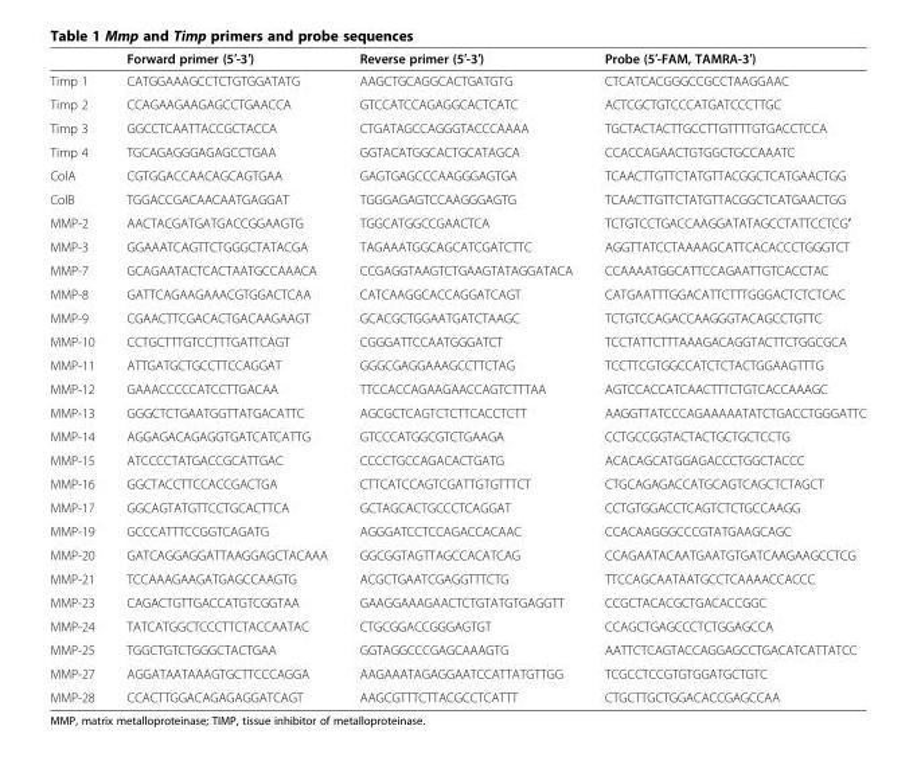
<table><thead><tr><td></td><td>Forward primer (5′-3′)</td><td>Reverse primer (5′-3′)</td><td>Probe (5′-FAM, TAMRA-3′)</td></tr></thead><tbody><tr><td>Timp 1</td><td>CATGGAAAGCCTCTGTGGATATG</td><td>AAGCTGCAGGCACTGATGTG</td><td>CTCATCACGGGCCGCCTAAGGAAC</td></tr><tr><td>Timp 2</td><td>CCAGAAGAAGAGCCTGAACCA</td><td>GTCCATCCAGAGGCACTCATC</td><td>ACTCGCTGTCCCATGATCCCTTGC</td></tr><tr><td>Timp 3</td><td>GGCCTCAATTACCGCTACCA</td><td>CTGATAGCCAGGGTACCCAAAA</td><td>TGCTACTACTTGCCTTGTTTTGTGACCTCCA</td></tr><tr><td>Timp 4</td><td>TGCAGAGGGAGAGCCTGAA</td><td>GGTACATGGCACTGCATAGCA</td><td>CCACCAGAACTGTGGCTGCCAAATC</td></tr><tr><td>ColA</td><td>CGTGGACCAACAGCAGTGAA</td><td>GAGTGAGCCCAAGGGAGTGA</td><td>TCAACTTGTTCTATGTTACGGCTCATGAACTGG</td></tr><tr><td>ColB</td><td>TGGACCGACAACAATGAGGAT</td><td>TGGGAGAGTCCAAGGGAGTG</td><td>TCAACTTGTTCTATGTTACGGCTCATGAACTGG</td></tr><tr><td>MMP-2</td><td>AACTACGATGATGACCGGAAGTG</td><td>TGGCATGGCCGAACTCA</td><td>TCTGTCCTGACCAAGGATATAGCCTATTCCTCG′</td></tr><tr><td>MMP-3</td><td>GGAAATCAGTTCTGGGCTATACGA</td><td>TAGAAATGGCAGCATCGATCTTC</td><td>AGGTTATCCTAAAAGCATTCACACCCTGGGTCT</td></tr><tr><td>MMP-7</td><td>GCAGAATACTCACTAATGCCAAACA</td><td>CCGAGGTAAGTCTGAAGTATAGGATACA</td><td>CCAAAATGGCATTCCAGAATTGTCACCTAC</td></tr><tr><td>MMP-8</td><td>GATTCAGAAGAAACGTGGACTCAA</td><td>CATCAAGGCACCAGGATCAGT</td><td>CATGAATTTGGACATTCTTTGGGACTCTCTCAC</td></tr><tr><td>MMP-9</td><td>CGAACTTCGACACTGACAAGAAGT</td><td>GCACGCTGGAATGATCTAAGC</td><td>TCTGTCCAGACCAAGGGTACAGCCTGTTC</td></tr><tr><td>MMP-10</td><td>CCTGCTTTGTCCTTTGATTCAGT</td><td>CGGGATTCCAATGGGATCT</td><td>TCCTATTCTTTAAAGACAGGTACTTCTGGCGCA</td></tr><tr><td>MMP-11</td><td>ATTGATGCTGCCTTCCAGGAT</td><td>GGGCGAGGAAAGCCTTCTAG</td><td>TCCTTCGTGGCCATCTCTACTGGAAGTTTG</td></tr><tr><td>MMP-12</td><td>GAAACCCCCATCCTTGACAA</td><td>TTCCACCAGAAGAACCAGTCTTTAA</td><td>AGTCCACCATCAACTTTCTGTCACCAAAGC</td></tr><tr><td>MMP-13</td><td>GGGCTCTGAATGGTTATGACATTC</td><td>AGCGCTCAGTCTCTTCACCTCTT</td><td>AAGGTTATCCCAGAAAAATATCTGACCTGGGATTC</td></tr><tr><td>MMP-14</td><td>AGGAGACAGAGGTGATCATCATTG</td><td>GTCCCATGGCGTCTGAAGA</td><td>CCTGCCGGTACTACTGCTGCTCCTG</td></tr><tr><td>MMP-15</td><td>ATCCCCTATGACCGCATTGAC</td><td>CCCCTGCCAGACACTGATG</td><td>ACACAGCATGGAGACCCTGGCTACCC</td></tr><tr><td>MMP-16</td><td>GGCTACCTTCCACCGACTGA</td><td>CTTCATCCAGTCGATTGTGTTTCT</td><td>CTGCAGAGACCATGCAGTCAGCTCTAGCT</td></tr><tr><td>MMP-17</td><td>GGCAGTATGTTCCTGCACTTCA</td><td>GCTAGCACTGCCCTCAGGAT</td><td>CCTGTGGACCTCAGTCTCTGCCAAGG</td></tr><tr><td>MMP-19</td><td>GCCCATTTCCGGTCAGATG</td><td>AGGGATCCTCCAGACCACAAC</td><td>CCACAAGGGCCCGTATGAAGCAGC</td></tr><tr><td>MMP-20</td><td>GATCAGGAGGATTAAGGAGCTACAAA</td><td>GGCGGTAGTTAGCCACATCAG</td><td>CCAGAATACAATGAATGTGATCAAGAAGCCTCG</td></tr><tr><td>MMP-21</td><td>TCCAAAGAAGATGAGCCAAGTG</td><td>ACGCTGAATCGAGGTTTCTG</td><td>TTCCAGCAATAATGCCTCAAAACCACCC</td></tr><tr><td>MMP-23</td><td>CAGACTGTTGACCATGTCGGTAA</td><td>GAAGGAAAGAACTCTGTATGTGAGGTT</td><td>CCGCTACACGCTGACACCGGC</td></tr><tr><td>MMP-24</td><td>TATCATGGCTCCCTTCTACCAATAC</td><td>CTGCGGACCGGGAGTGT</td><td>CCAGCTGAGCCCTCTGGAGCCA</td></tr><tr><td>MMP-25</td><td>TGGCTGTCTGGGCTACTGAA</td><td>GGTAGGCCCGAGCAAAGTG</td><td>AATTCTCAGTACCAGGAGCCTGACATCATTATCC</td></tr><tr><td>MMP-27</td><td>AGGATAATAAAGTGCTTCCCAGGA</td><td>AAGAAATAGAGGAATCCATTATGTTGG</td><td>TCGCCTCCGTGTGGATGCTGTC</td></tr><tr><td>MMP-28</td><td>CCACTTGGACAGAGAGGATCAGT</td><td>AAGCGTTTCTTACGCCTCATTT</td><td>CTGCTTGCTGGACACCGAGCCAA</td></tr></tbody></table>